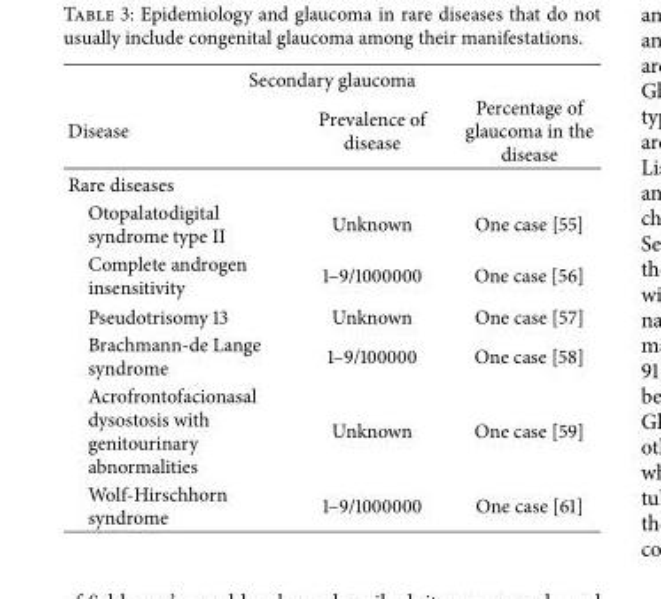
<table><thead><tr><td colspan="3">Secondary glaucoma</td></tr><tr><td>Disease</td><td>Prevalence of disease</td><td>Percentage of glaucoma in the disease</td></tr></thead><tbody><tr><td colspan="3">Rare diseases</td></tr><tr><td>Otopalatodigital syndrome type II</td><td>Unknown</td><td>One case [55]</td></tr><tr><td>Complete androgen insensitivity</td><td>1–9/1000000</td><td>One case [56]</td></tr><tr><td>Pseudotrisomy 13</td><td>Unknown</td><td>One case [57]</td></tr><tr><td>Brachmann-de Lange syndrome</td><td>1–9/100000</td><td>One case [58]</td></tr><tr><td>Acrofrontofacionasal dysostosis with genitourinary abnormalities</td><td>Unknown</td><td>One case [59]</td></tr><tr><td>Wolf-Hirschhorn syndrome</td><td>1–9/1000000</td><td>One case [61]</td></tr></tbody></table>